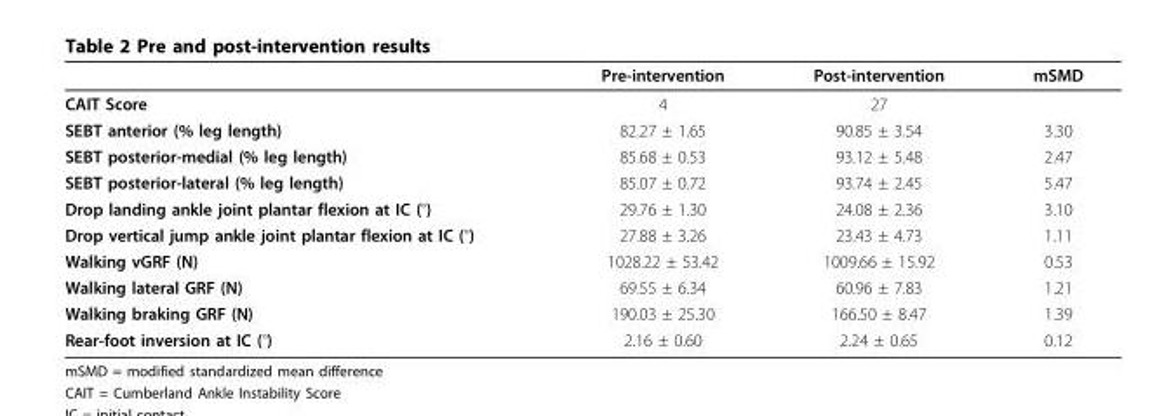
<table><thead><tr><td></td><td>Pre-intervention</td><td>Post-intervention</td><td>mSMD</td></tr></thead><tbody><tr><td>CAIT Score</td><td>4</td><td>27</td><td></td></tr><tr><td>SEBT anterior (% leg length)</td><td>82.27 ± 1.65</td><td>90.85 ± 3.54</td><td>3.30</td></tr><tr><td>SEBT posterior-medial (% leg length)</td><td>85.68 ± 0.53</td><td>93.12 ± 5.48</td><td>2.47</td></tr><tr><td>SEBT posterior-lateral (% leg length)</td><td>85.07 ± 0.72</td><td>93.74 ± 2.45</td><td>5.47</td></tr><tr><td>Drop landing ankle joint plantar flexion at IC (°)</td><td>29.76 ± 1.30</td><td>24.08 ± 2.36</td><td>3.10</td></tr><tr><td>Drop vertical jump ankle joint plantar flexion at IC (°)</td><td>27.88 ± 3.26</td><td>23.43 ± 4.73</td><td>1.11</td></tr><tr><td>Walking vGRF (N)</td><td>1028.22 ± 53.42</td><td>1009.66 ± 15.92</td><td>0.53</td></tr><tr><td>Walking lateral GRF (N)</td><td>69.55 ± 6.34</td><td>60.96 ± 7.83</td><td>1.21</td></tr><tr><td>Walking braking GRF (N)</td><td>190.03 ± 25.30</td><td>166.50 ± 8.47</td><td>1.39</td></tr><tr><td>Rear-foot inversion at IC (°)</td><td>2.16 ± 0.60</td><td>2.24 ± 0.65</td><td>0.12</td></tr></tbody></table>